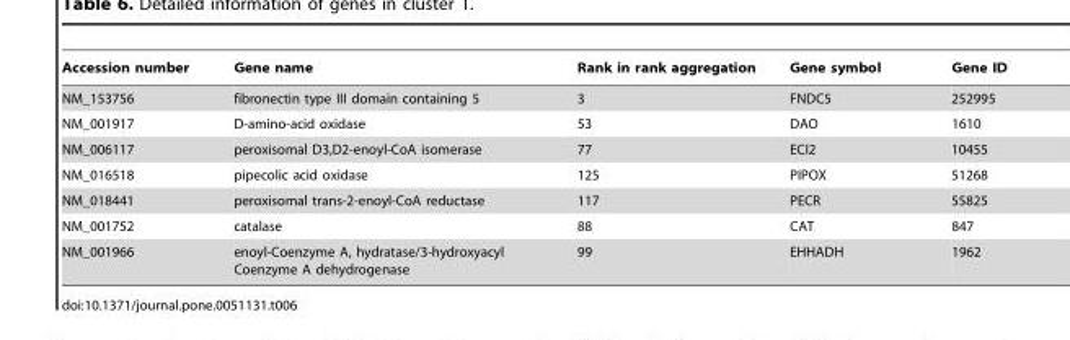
<table><thead><tr><td>Accession number</td><td>Gene name</td><td>Rank in rank aggregation</td><td>Gene symbol</td><td>Gene ID</td></tr></thead><tbody><tr><td>NM_153756</td><td>fibronectin type III domain containing 5</td><td>3</td><td>FNDC5</td><td>252995</td></tr><tr><td>NM_001917</td><td>D-amino-acid oxidase</td><td>53</td><td>DAO</td><td>1610</td></tr><tr><td>NM_006117</td><td>peroxisomal D3,D2-enoyl-CoA isomerase</td><td>77</td><td>ECI2</td><td>10455</td></tr><tr><td>NM_016518</td><td>pipecolic acid oxidase</td><td>125</td><td>PIPOX</td><td>51268</td></tr><tr><td>NM_018441</td><td>peroxisomal trans-2-enoyl-CoA reductase</td><td>117</td><td>PECR</td><td>55825</td></tr><tr><td>NM_001752</td><td>catalase</td><td>88</td><td>CAT</td><td>847</td></tr><tr><td>NM_001966</td><td>enoyl-Coenzyme A, hydratase/3-hydroxyacyl Coenzyme A dehydrogenase</td><td>99</td><td>EHHADH</td><td>1962</td></tr></tbody></table>